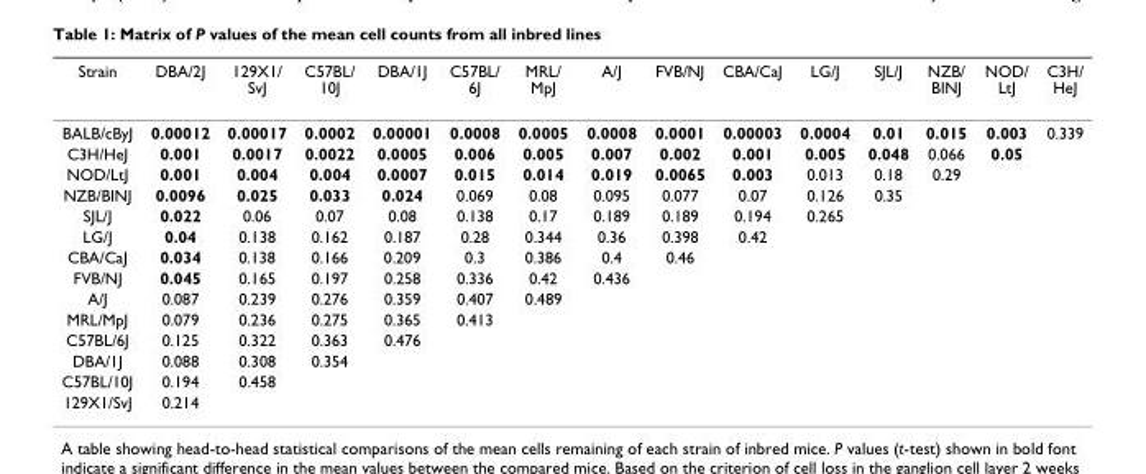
<table><thead><tr><td>Strain</td><td>DBA/2J</td><td>129X1/ SvJ</td><td>C57BL/ 10J</td><td>DBA/1J</td><td>C57BL/ 6J</td><td>MRL/ MpJ</td><td>A/J</td><td>FVB/NJ</td><td>CBA/CaJ</td><td>LG/J</td><td>SJL/J</td><td>NZB/ BINJ</td><td>NOD/ LtJ</td><td>C3H/ HeJ</td></tr></thead><tbody><tr><td>BALB/cByJ</td><td>0.00012</td><td>0.00017</td><td>0.0002</td><td>0.00001</td><td>0.0008</td><td>0.0005</td><td>0.0008</td><td>0.0001</td><td>0.00003</td><td>0.0004</td><td>0.01</td><td>0.015</td><td>0.003</td><td>0.339</td></tr><tr><td>C3H/HeJ</td><td>0.001</td><td>0.0017</td><td>0.0022</td><td>0.0005</td><td>0.006</td><td>0.005</td><td>0.007</td><td>0.002</td><td>0.001</td><td>0.005</td><td>0.048</td><td>0.066</td><td>0.05</td><td></td></tr><tr><td>NOD/LtJ</td><td>0.001</td><td>0.004</td><td>0.004</td><td>0.0007</td><td>0.015</td><td>0.014</td><td>0.019</td><td>0.0065</td><td>0.003</td><td>0.013</td><td>0.18</td><td>0.29</td><td></td><td></td></tr><tr><td>NZB/BINJ</td><td>0.0096</td><td>0.025</td><td>0.033</td><td>0.024</td><td>0.069</td><td>0.08</td><td>0.095</td><td>0.077</td><td>0.07</td><td>0.126</td><td>0.35</td><td></td><td></td><td></td></tr><tr><td>SJL/J</td><td>0.022</td><td>0.06</td><td>0.07</td><td>0.08</td><td>0.138</td><td>0.17</td><td>0.189</td><td>0.189</td><td>0.194</td><td>0.265</td><td></td><td></td><td></td><td></td></tr><tr><td>LG/J</td><td>0.04</td><td>0.138</td><td>0.162</td><td>0.187</td><td>0.28</td><td>0.344</td><td>0.36</td><td>0.398</td><td>0.42</td><td></td><td></td><td></td><td></td><td></td></tr><tr><td>CBA/CaJ</td><td>0.034</td><td>0.138</td><td>0.166</td><td>0.209</td><td>0.3</td><td>0.386</td><td>0.4</td><td>0.46</td><td></td><td></td><td></td><td></td><td></td><td></td></tr><tr><td>FVB/NJ</td><td>0.045</td><td>0.165</td><td>0.197</td><td>0.258</td><td>0.336</td><td>0.42</td><td>0.436</td><td></td><td></td><td></td><td></td><td></td><td></td><td></td></tr><tr><td>A/J</td><td>0.087</td><td>0.239</td><td>0.276</td><td>0.359</td><td>0.407</td><td>0.489</td><td></td><td></td><td></td><td></td><td></td><td></td><td></td><td></td></tr><tr><td>MRL/MpJ</td><td>0.079</td><td>0.236</td><td>0.275</td><td>0.365</td><td>0.413</td><td></td><td></td><td></td><td></td><td></td><td></td><td></td><td></td><td></td></tr><tr><td>C57BL/6J</td><td>0.125</td><td>0.322</td><td>0.363</td><td>0.476</td><td></td><td></td><td></td><td></td><td></td><td></td><td></td><td></td><td></td><td></td></tr><tr><td>DBA/1J</td><td>0.088</td><td>0.308</td><td>0.354</td><td></td><td></td><td></td><td></td><td></td><td></td><td></td><td></td><td></td><td></td><td></td></tr><tr><td>C57BL/10J</td><td>0.194</td><td>0.458</td><td></td><td></td><td></td><td></td><td></td><td></td><td></td><td></td><td></td><td></td><td></td><td></td></tr><tr><td>129X1/SvJ</td><td>0.214</td><td></td><td></td><td></td><td></td><td></td><td></td><td></td><td></td><td></td><td></td><td></td><td></td><td></td></tr></tbody></table>